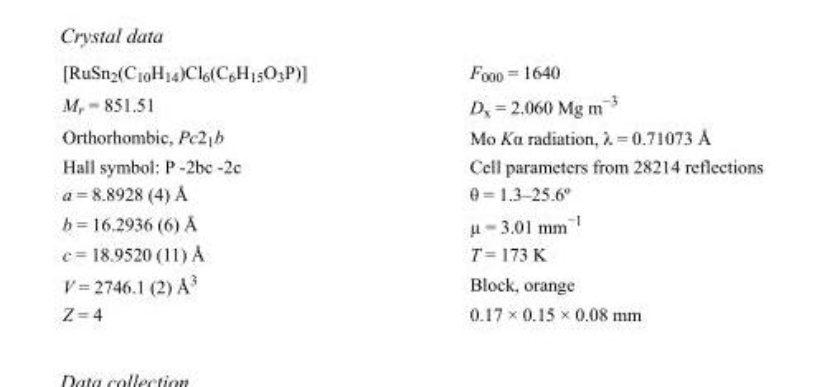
<table><tbody><tr><td>[RuSn<sub>2</sub>(C<sub>10</sub>H<sub>14</sub>)Cl<sub>6</sub>(C<sub>6</sub>H<sub>15</sub>O<sub>3</sub>P)]</td><td>F000 = 1640</td></tr><tr><td>M<sub>r</sub> = 851.51</td><td>D<sub>x</sub> = 2.060 Mg m<sup>−3</sup></td></tr><tr><td>Orthorhombic, Pc2<sub>1</sub>b</td><td>Mo Kα radiation, λ = 0.71073 Å</td></tr><tr><td>Hall symbol: P -2bc -2c</td><td>Cell parameters from 28214 reflections</td></tr><tr><td>a = 8.8928 (4) Å</td><td>θ = 1.3–25.6º</td></tr><tr><td>b = 16.2936 (6) Å</td><td>µ = 3.01 mm<sup>−1</sup></td></tr><tr><td>c = 18.9520 (11) Å</td><td>T = 173 K</td></tr><tr><td>V = 2746.1 (2) Å<sup>3</sup></td><td>Block, orange</td></tr><tr><td>Z = 4</td><td>0.17 × 0.15 × 0.08 mm</td></tr></tbody></table>